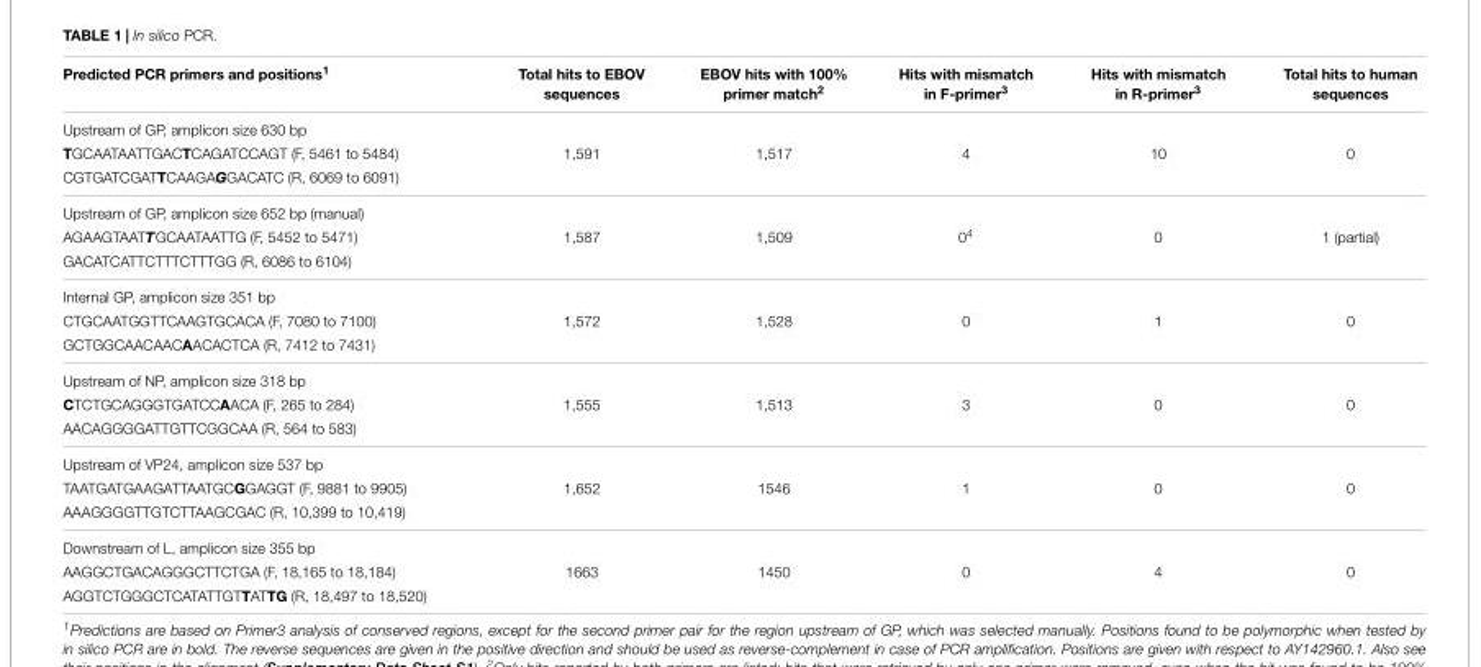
<table><thead><tr><td>Predicted PCR primers and positions<sup>1</sup></td><td>Total hits to EBOV sequences</td><td>EBOV hits with 100% primer match<sup>2</sup></td><td>Hits with mismatch in F-primer<sup>3</sup></td><td>Hits with mismatch in R-primer<sup>3</sup></td><td>Total hits to human sequences</td></tr></thead><tbody><tr><td colspan="6">Upstream of GP, amplicon size 630 bp</td></tr><tr><td>TGCAATAATTGACTCAGATCCAGT (F, 5461 to 5484)</td><td>1,591</td><td>1,517</td><td>4</td><td>10</td><td>0</td></tr><tr><td colspan="6">CGTGATCGATTCAAGAGGACATC (R, 6069 to 6091)</td></tr><tr><td colspan="6">Upstream of GP, amplicon size 652 bp (manual)</td></tr><tr><td>AGAAGTAATTGCAATAATTG (F, 5452 to 5471)</td><td>1,587</td><td>1,509</td><td>0<sup>4</sup></td><td>0</td><td>1 (partial)</td></tr><tr><td colspan="6">GACATCATTCTTTCTTTGG (R, 6086 to 6104)</td></tr><tr><td colspan="6">Internal GP, amplicon size 351 bp</td></tr><tr><td>CTGCAATGGTTCAAGTGCACA (F, 7080 to 7100)</td><td>1,572</td><td>1,528</td><td>0</td><td>1</td><td>0</td></tr><tr><td colspan="6">GCTGGCAACAACAACACTCA (R, 7412 to 7431)</td></tr><tr><td colspan="6">Upstream of NP, amplicon size 318 bp</td></tr><tr><td>CTCTGCAGGGTGATCCAACA (F, 265 to 284)</td><td>1,555</td><td>1,513</td><td>3</td><td>0</td><td>0</td></tr><tr><td colspan="6">AACAGGGGATTGTTCGGCAA (R, 564 to 583)</td></tr><tr><td colspan="6">Upstream of VP24, amplicon size 537 bp</td></tr><tr><td>TAATGATGAAGATTAATGCGGAGGT (F, 9881 to 9905)</td><td>1,652</td><td>1546</td><td>1</td><td>0</td><td>0</td></tr><tr><td colspan="6">AAAGGGGTTGTCTTAAGCGAC (R, 10,399 to 10,419)</td></tr><tr><td colspan="6">Downstream of L, amplicon size 355 bp</td></tr><tr><td>AAGGCTGACAGGGCTTCTGA (F, 18,165 to 18,184)</td><td>1663</td><td>1450</td><td>0</td><td>4</td><td>0</td></tr><tr><td>AGGTCTGGGCTCATATTGTTATTG (R, 18,497 to 18,520)</td><td></td><td></td><td></td><td></td><td></td></tr></tbody></table>